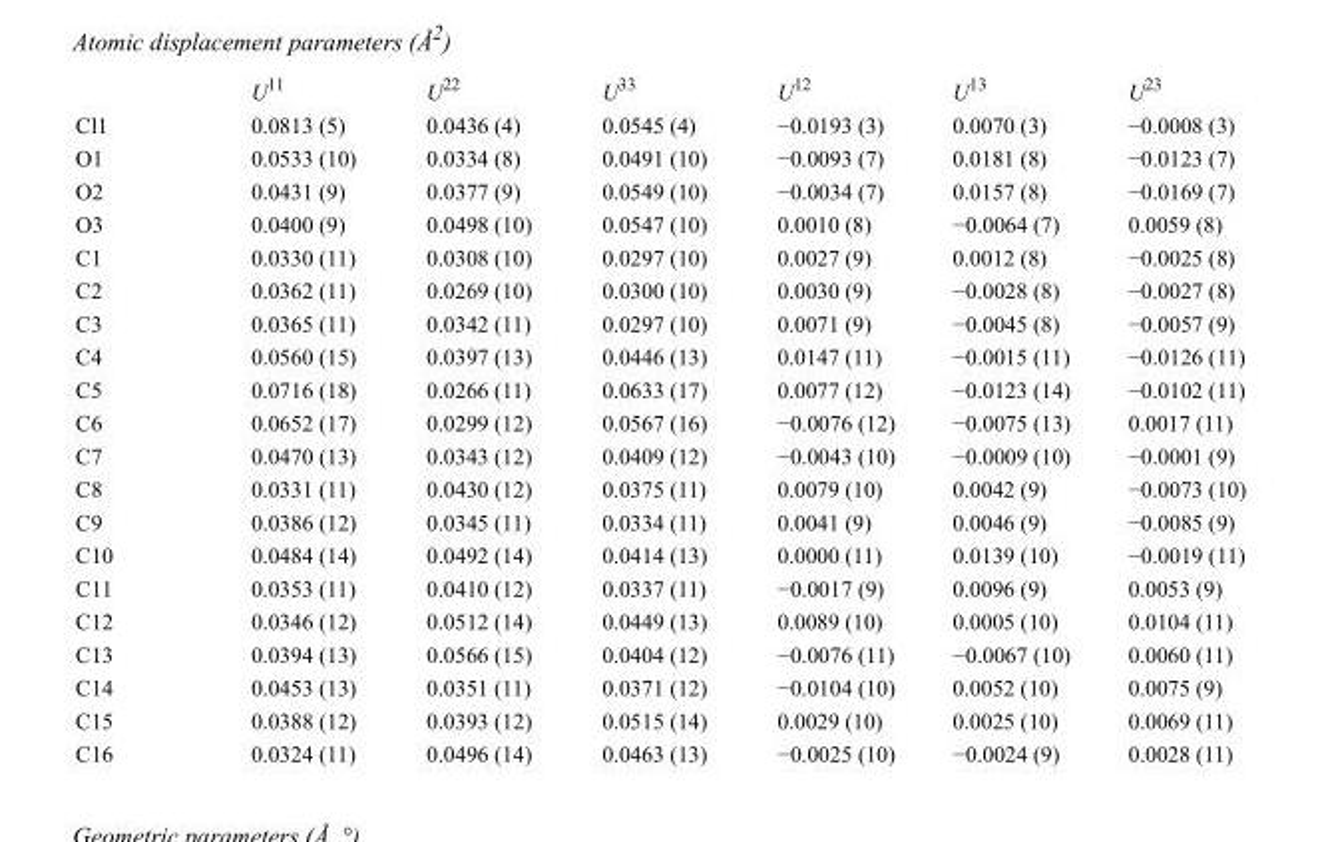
<table><thead><tr><td></td><td>U<sup>11</sup></td><td>U<sup>22</sup></td><td>U<sup>33</sup></td><td>U<sup>12</sup></td><td>U<sup>13</sup></td><td>U<sup>23</sup></td></tr></thead><tbody><tr><td>Cl1</td><td>0.0813 (5)</td><td>0.0436 (4)</td><td>0.0545 (4)</td><td>−0.0193 (3)</td><td>0.0070 (3)</td><td>−0.0008 (3)</td></tr><tr><td>O1</td><td>0.0533 (10)</td><td>0.0334 (8)</td><td>0.0491 (10)</td><td>−0.0093 (7)</td><td>0.0181 (8)</td><td>−0.0123 (7)</td></tr><tr><td>O2</td><td>0.0431 (9)</td><td>0.0377 (9)</td><td>0.0549 (10)</td><td>−0.0034 (7)</td><td>0.0157 (8)</td><td>−0.0169 (7)</td></tr><tr><td>O3</td><td>0.0400 (9)</td><td>0.0498 (10)</td><td>0.0547 (10)</td><td>0.0010 (8)</td><td>−0.0064 (7)</td><td>0.0059 (8)</td></tr><tr><td>C1</td><td>0.0330 (11)</td><td>0.0308 (10)</td><td>0.0297 (10)</td><td>0.0027 (9)</td><td>0.0012 (8)</td><td>−0.0025 (8)</td></tr><tr><td>C2</td><td>0.0362 (11)</td><td>0.0269 (10)</td><td>0.0300 (10)</td><td>0.0030 (9)</td><td>−0.0028 (8)</td><td>−0.0027 (8)</td></tr><tr><td>C3</td><td>0.0365 (11)</td><td>0.0342 (11)</td><td>0.0297 (10)</td><td>0.0071 (9)</td><td>−0.0045 (8)</td><td>−0.0057 (9)</td></tr><tr><td>C4</td><td>0.0560 (15)</td><td>0.0397 (13)</td><td>0.0446 (13)</td><td>0.0147 (11)</td><td>−0.0015 (11)</td><td>−0.0126 (11)</td></tr><tr><td>C5</td><td>0.0716 (18)</td><td>0.0266 (11)</td><td>0.0633 (17)</td><td>0.0077 (12)</td><td>−0.0123 (14)</td><td>−0.0102 (11)</td></tr><tr><td>C6</td><td>0.0652 (17)</td><td>0.0299 (12)</td><td>0.0567 (16)</td><td>−0.0076 (12)</td><td>−0.0075 (13)</td><td>0.0017 (11)</td></tr><tr><td>C7</td><td>0.0470 (13)</td><td>0.0343 (12)</td><td>0.0409 (12)</td><td>−0.0043 (10)</td><td>−0.0009 (10)</td><td>−0.0001 (9)</td></tr><tr><td>C8</td><td>0.0331 (11)</td><td>0.0430 (12)</td><td>0.0375 (11)</td><td>0.0079 (10)</td><td>0.0042 (9)</td><td>−0.0073 (10)</td></tr><tr><td>C9</td><td>0.0386 (12)</td><td>0.0345 (11)</td><td>0.0334 (11)</td><td>0.0041 (9)</td><td>0.0046 (9)</td><td>−0.0085 (9)</td></tr><tr><td>C10</td><td>0.0484 (14)</td><td>0.0492 (14)</td><td>0.0414 (13)</td><td>0.0000 (11)</td><td>0.0139 (10)</td><td>−0.0019 (11)</td></tr><tr><td>C11</td><td>0.0353 (11)</td><td>0.0410 (12)</td><td>0.0337 (11)</td><td>−0.0017 (9)</td><td>0.0096 (9)</td><td>0.0053 (9)</td></tr><tr><td>C12</td><td>0.0346 (12)</td><td>0.0512 (14)</td><td>0.0449 (13)</td><td>0.0089 (10)</td><td>0.0005 (10)</td><td>0.0104 (11)</td></tr><tr><td>C13</td><td>0.0394 (13)</td><td>0.0566 (15)</td><td>0.0404 (12)</td><td>−0.0076 (11)</td><td>−0.0067 (10)</td><td>0.0060 (11)</td></tr><tr><td>C14</td><td>0.0453 (13)</td><td>0.0351 (11)</td><td>0.0371 (12)</td><td>−0.0104 (10)</td><td>0.0052 (10)</td><td>0.0075 (9)</td></tr><tr><td>C15</td><td>0.0388 (12)</td><td>0.0393 (12)</td><td>0.0515 (14)</td><td>0.0029 (10)</td><td>0.0025 (10)</td><td>0.0069 (11)</td></tr><tr><td>C16</td><td>0.0324 (11)</td><td>0.0496 (14)</td><td>0.0463 (13)</td><td>−0.0025 (10)</td><td>−0.0024 (9)</td><td>0.0028 (11)</td></tr></tbody></table>